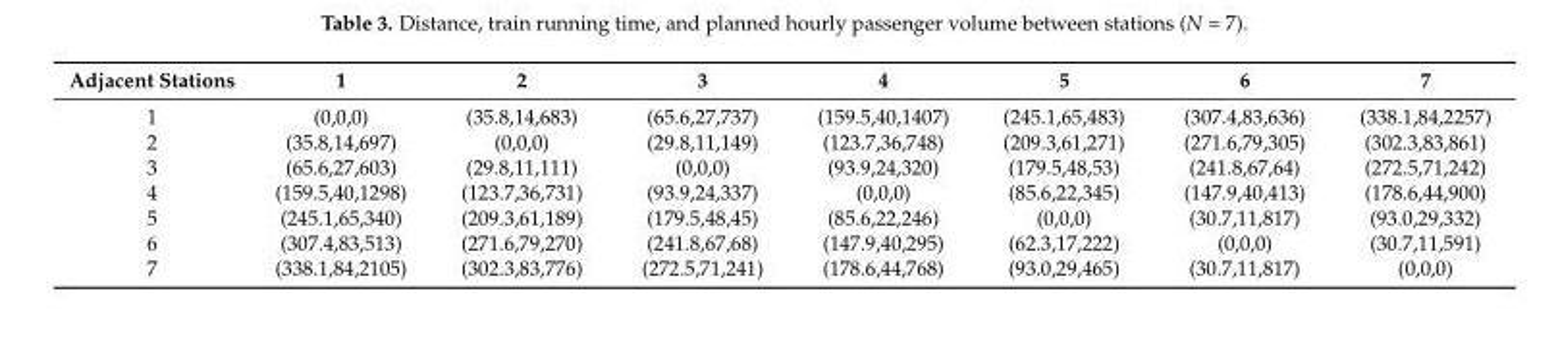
<table><thead><tr><td>Adjacent Stations</td><td>1</td><td>2</td><td>3</td><td>4</td><td>5</td><td>6</td><td>7</td></tr></thead><tbody><tr><td>1</td><td>(0,0,0)</td><td>(35.8,14,683)</td><td>(65.6,27,737)</td><td>(159.5,40,1407)</td><td>(245.1,65,483)</td><td>(307.4,83,636)</td><td>(338.1,84,2257)</td></tr><tr><td>2</td><td>(35.8,14,697)</td><td>(0,0,0)</td><td>(29.8,11,149)</td><td>(123.7,36,748)</td><td>(209.3,61,271)</td><td>(271.6,79,305)</td><td>(302.3,83,861)</td></tr><tr><td>3</td><td>(65.6,27,603)</td><td>(29.8,11,111)</td><td>(0,0,0)</td><td>(93.9,24,320)</td><td>(179.5,48,53)</td><td>(241.8,67,64)</td><td>(272.5,71,242)</td></tr><tr><td>4</td><td>(159.5,40,1298)</td><td>(123.7,36,731)</td><td>(93.9,24,337)</td><td>(0,0,0)</td><td>(85.6,22,345)</td><td>(147.9,40,413)</td><td>(178.6,44,900)</td></tr><tr><td>5</td><td>(245.1,65,340)</td><td>(209.3,61,189)</td><td>(179.5,48,45)</td><td>(85.6,22,246)</td><td>(0,0,0)</td><td>(30.7,11,817)</td><td>(93.0,29,332)</td></tr><tr><td>6</td><td>(307.4,83,513)</td><td>(271.6,79,270)</td><td>(241.8,67,68)</td><td>(147.9,40,295)</td><td>(62.3,17,222)</td><td>(0,0,0)</td><td>(30.7,11,591)</td></tr><tr><td>7</td><td>(338.1,84,2105)</td><td>(302.3,83,776)</td><td>(272.5,71,241)</td><td>(178.6,44,768)</td><td>(93.0,29,465)</td><td>(30.7,11,817)</td><td>(0,0,0)</td></tr></tbody></table>